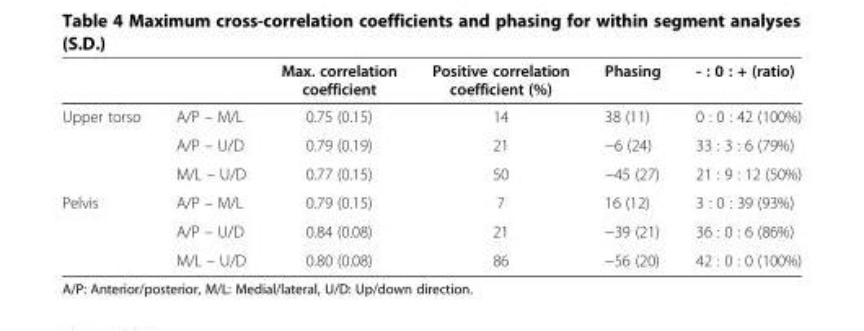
<table><thead><tr><td></td><td></td><td>Max. correlation coefficient</td><td>Positive correlation coefficient (%)</td><td>Phasing</td><td>- : 0 : + (ratio)</td></tr></thead><tbody><tr><td rowspan="3">Upper torso</td><td>A/P – M/L</td><td>0.75 (0.15)</td><td>14</td><td>38 (11)</td><td>0 : 0 : 42 (100%)</td></tr><tr><td>A/P – U/D</td><td>0.79 (0.19)</td><td>21</td><td>−6 (24)</td><td>33 : 3 : 6 (79%)</td></tr><tr><td>M/L – U/D</td><td>0.77 (0.15)</td><td>50</td><td>−45 (27)</td><td>21 : 9 : 12 (50%)</td></tr><tr><td rowspan="3">Pelvis</td><td>A/P – M/L</td><td>0.79 (0.15)</td><td>7</td><td>16 (12)</td><td>3 : 0 : 39 (93%)</td></tr><tr><td>A/P – U/D</td><td>0.84 (0.08)</td><td>21</td><td>−39 (21)</td><td>36 : 0 : 6 (86%)</td></tr><tr><td>M/L – U/D</td><td>0.80 (0.08)</td><td>86</td><td>−56 (20)</td><td>42 : 0 : 0 (100%)</td></tr></tbody></table>